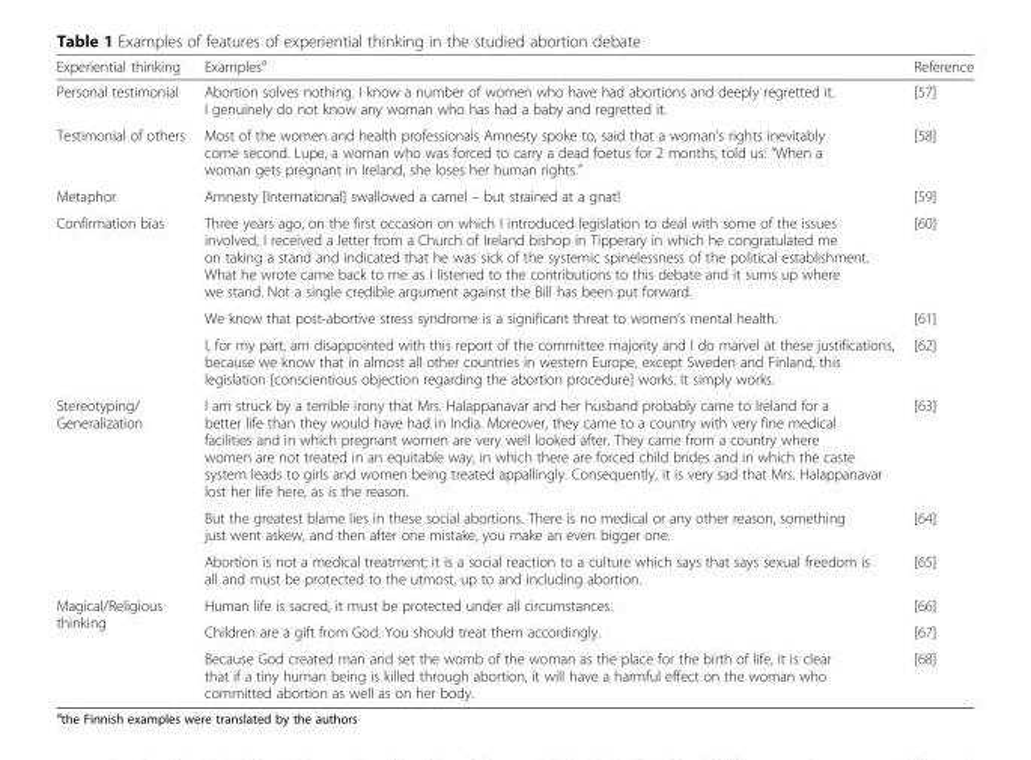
<table><thead><tr><td>Experiential thinking</td><td>Examples<sup>a</sup></td><td>Reference</td></tr></thead><tbody><tr><td>Personal testimonial</td><td>Abortion solves nothing. I know a number of women who have had abortions and deeply regretted it. I genuinely do not know any woman who has had a baby and regretted it.</td><td>[57]</td></tr><tr><td>Testimonial of others</td><td>Most of the women and health professionals Amnesty spoke to, said that a woman’s rights inevitably come second. Lupe, a woman who was forced to carry a dead foetus for 2 months, told us: “When a woman gets pregnant in Ireland, she loses her human rights.”</td><td>[58]</td></tr><tr><td>Metaphor</td><td>Amnesty [International] swallowed a camel – but strained at a gnat!</td><td>[59]</td></tr><tr><td rowspan="3">Confirmation bias</td><td>Three years ago, on the first occasion on which I introduced legislation to deal with some of the issues involved, I received a letter from a Church of Ireland bishop in Tipperary in which he congratulated me on taking a stand and indicated that he was sick of the systemic spinelessness of the political establishment. What he wrote came back to me as I listened to the contributions to this debate and it sums up where we stand. Not a single credible argument against the Bill has been put forward.</td><td>[60]</td></tr><tr><td>We know that post-abortive stress syndrome is a significant threat to women’s mental health.</td><td>[61]</td></tr><tr><td>I, for my part, am disappointed with this report of the committee majority and I do marvel at these justifications, because we know that in almost all other countries in western Europe, except Sweden and Finland, this legislation [conscientious objection regarding the abortion procedure] works. It simply works.</td><td>[62]</td></tr><tr><td rowspan="3">Stereotyping/ Generalization</td><td>I am struck by a terrible irony that Mrs. Halappanavar and her husband probably came to Ireland for a better life than they would have had in India. Moreover, they came to a country with very fine medical facilities and in which pregnant women are very well looked after. They came from a country where women are not treated in an equitable way, in which there are forced child brides and in which the caste system leads to girls and women being treated appallingly. Consequently, it is very sad that Mrs. Halappanavar lost her life here, as is the reason.</td><td>[63]</td></tr><tr><td>But the greatest blame lies in these social abortions. There is no medical or any other reason, something just went askew, and then after one mistake, you make an even bigger one.</td><td>[64]</td></tr><tr><td>Abortion is not a medical treatment; it is a social reaction to a culture which says that says sexual freedom is all and must be protected to the utmost, up to and including abortion.</td><td>[65]</td></tr><tr><td rowspan="3">Magical/Religious thinking</td><td>Human life is sacred, it must be protected under all circumstances.</td><td>[66]</td></tr><tr><td>Children are a gift from God. You should treat them accordingly.</td><td>[67]</td></tr><tr><td>Because God created man and set the womb of the woman as the place for the birth of life, it is clear that if a tiny human being is killed through abortion, it will have a harmful effect on the woman who committed abortion as well as on her body.</td><td>[68]</td></tr></tbody></table>